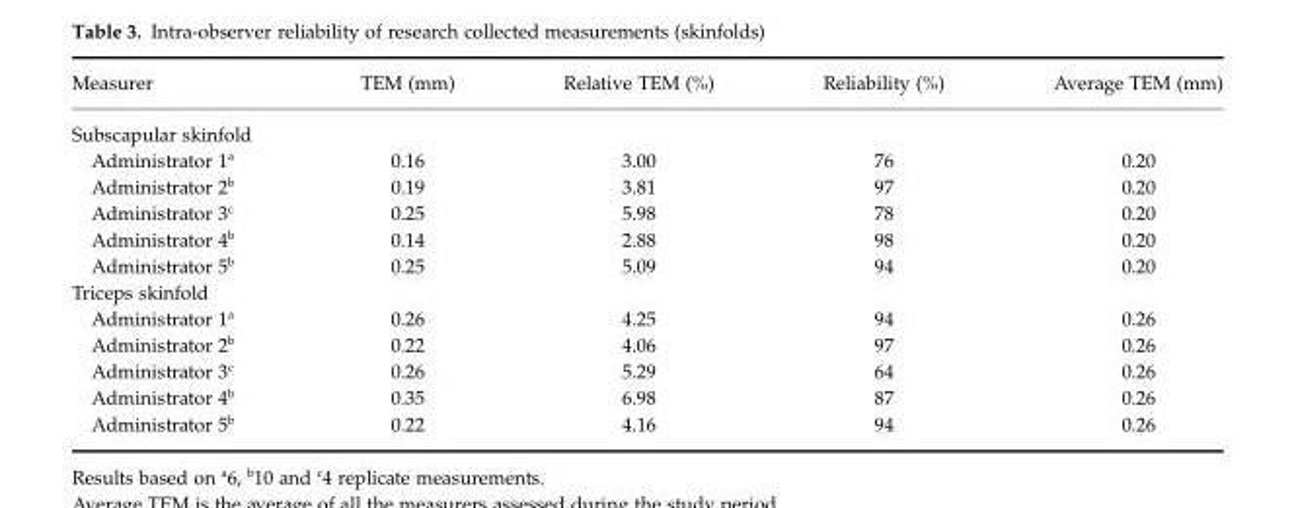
<table><thead><tr><td>Measurer</td><td>TEM (mm)</td><td>Relative TEM (%)</td><td>Reliability (%)</td><td>Average TEM (mm)</td></tr></thead><tbody><tr><td colspan="5">Subscapular skinfold</td></tr><tr><td>Administrator 1<sup>a</sup></td><td>0.16</td><td>3.00</td><td>76</td><td>0.20</td></tr><tr><td>Administrator 2<sup>b</sup></td><td>0.19</td><td>3.81</td><td>97</td><td>0.20</td></tr><tr><td>Administrator 3<sup>c</sup></td><td>0.25</td><td>5.98</td><td>78</td><td>0.20</td></tr><tr><td>Administrator 4<sup>b</sup></td><td>0.14</td><td>2.88</td><td>98</td><td>0.20</td></tr><tr><td>Administrator 5<sup>b</sup></td><td>0.25</td><td>5.09</td><td>94</td><td>0.20</td></tr><tr><td colspan="5">Triceps skinfold</td></tr><tr><td>Administrator 1<sup>a</sup></td><td>0.26</td><td>4.25</td><td>94</td><td>0.26</td></tr><tr><td>Administrator 2<sup>b</sup></td><td>0.22</td><td>4.06</td><td>97</td><td>0.26</td></tr><tr><td>Administrator 3<sup>c</sup></td><td>0.26</td><td>5.29</td><td>64</td><td>0.26</td></tr><tr><td>Administrator 4<sup>b</sup></td><td>0.35</td><td>6.98</td><td>87</td><td>0.26</td></tr><tr><td>Administrator 5<sup>b</sup></td><td>0.22</td><td>4.16</td><td>94</td><td>0.26</td></tr></tbody></table>